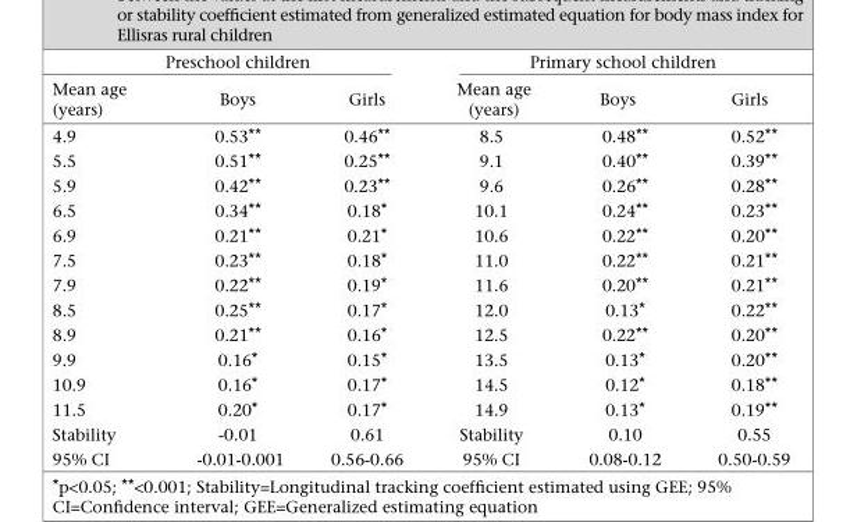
<table><thead><tr><td colspan="3">Preschool children</td><td colspan="3">Primary school children</td></tr><tr><td>Mean age (years)</td><td>Boys</td><td>Girls</td><td>Mean age (years)</td><td>Boys</td><td>Girls</td></tr></thead><tbody><tr><td>4.9</td><td>0.53**</td><td>0.46**</td><td>8.5</td><td>0.48**</td><td>0.52**</td></tr><tr><td>5.5</td><td>0.51**</td><td>0.25**</td><td>9.1</td><td>0.40**</td><td>0.39**</td></tr><tr><td>5.9</td><td>0.42**</td><td>0.23**</td><td>9.6</td><td>0.26**</td><td>0.28**</td></tr><tr><td>6.5</td><td>0.34**</td><td>0.18*</td><td>10.1</td><td>0.24**</td><td>0.23**</td></tr><tr><td>6.9</td><td>0.21**</td><td>0.21*</td><td>10.6</td><td>0.22**</td><td>0.20**</td></tr><tr><td>7.5</td><td>0.23**</td><td>0.18*</td><td>11.0</td><td>0.22**</td><td>0.21**</td></tr><tr><td>7.9</td><td>0.22**</td><td>0.19*</td><td>11.6</td><td>0.20**</td><td>0.21**</td></tr><tr><td>8.5</td><td>0.25**</td><td>0.17*</td><td>12.0</td><td>0.13*</td><td>0.22**</td></tr><tr><td>8.9</td><td>0.21**</td><td>0.16*</td><td>12.5</td><td>0.22**</td><td>0.20**</td></tr><tr><td>9.9</td><td>0.16*</td><td>0.15*</td><td>13.5</td><td>0.13*</td><td>0.20**</td></tr><tr><td>10.9</td><td>0.16*</td><td>0.17*</td><td>14.5</td><td>0.12*</td><td>0.18**</td></tr><tr><td>11.5</td><td>0.20*</td><td>0.17*</td><td>14.9</td><td>0.13*</td><td>0.19**</td></tr><tr><td>Stability</td><td>-0.01</td><td>0.61</td><td>Stability</td><td>0.10</td><td>0.55</td></tr><tr><td>95% CI</td><td>-0.01-0.001</td><td>0.56-0.66</td><td>95% CI</td><td>0.08-0.12</td><td>0.50-0.59</td></tr></tbody></table>